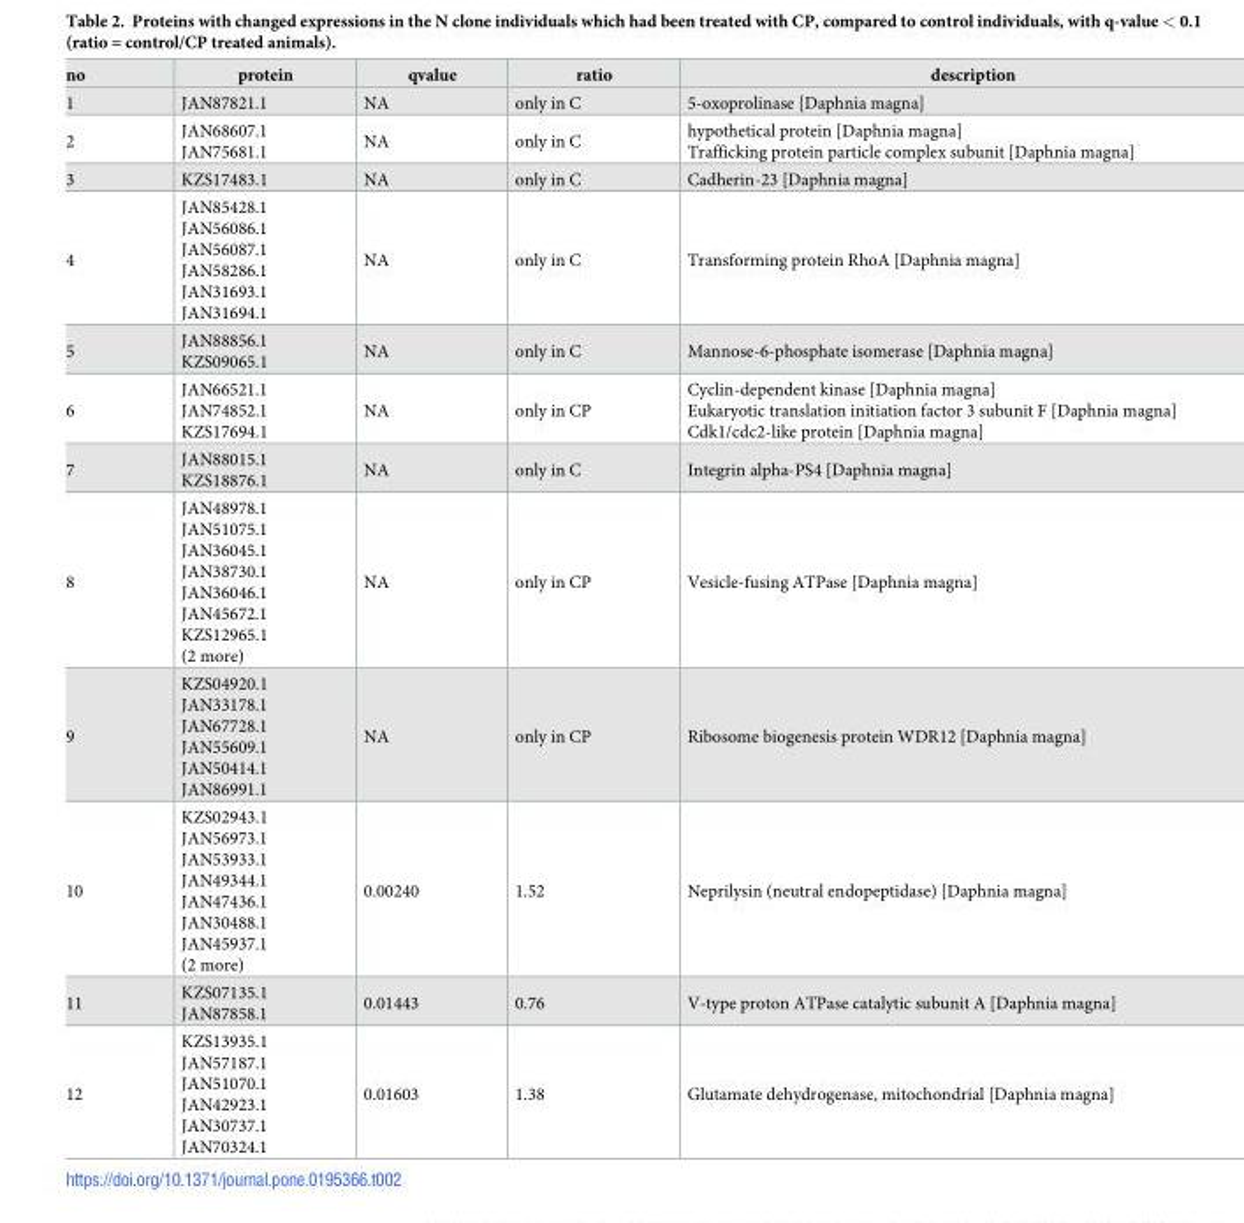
<table><thead><tr><td>no</td><td>protein</td><td>qvalue</td><td>ratio</td><td>description</td></tr></thead><tbody><tr><td>1</td><td>JAN87821.1</td><td>NA</td><td>only in C</td><td>5-oxoprolinase [Daphnia magna]</td></tr><tr><td>2</td><td>JAN68607.1 JAN75681.1</td><td>NA</td><td>only in C</td><td>hypothetical protein [Daphnia magna] Trafficking protein particle complex subunit [Daphnia magna]</td></tr><tr><td>3</td><td>KZS17483.1</td><td>NA</td><td>only in C</td><td>Cadherin-23 [Daphnia magna]</td></tr><tr><td>4</td><td>JAN85428.1 JAN56086.1 JAN56087.1 JAN58286.1 JAN31693.1 JAN31694.1</td><td>NA</td><td>only in C</td><td>Transforming protein RhoA [Daphnia magna]</td></tr><tr><td>5</td><td>JAN88856.1 KZS09065.1</td><td>NA</td><td>only in C</td><td>Mannose-6-phosphate isomerase [Daphnia magna]</td></tr><tr><td>6</td><td>JAN66521.1 JAN74852.1 KZS17694.1</td><td>NA</td><td>only in CP</td><td>Cyclin-dependent kinase [Daphnia magna] Eukaryotic translation initiation factor 3 subunit F [Daphnia magna] Cdk1/cdc2-like protein [Daphnia magna]</td></tr><tr><td>7</td><td>JAN88015.1 KZS18876.1</td><td>NA</td><td>only in C</td><td>Integrin alpha-PS4 [Daphnia magna]</td></tr><tr><td>8</td><td>JAN48978.1 JAN51075.1 JAN36045.1 JAN38730.1 JAN36046.1 JAN45672.1 KZS12965.1 (2 more)</td><td>NA</td><td>only in CP</td><td>Vesicle-fusing ATPase [Daphnia magna]</td></tr><tr><td>9</td><td>KZS04920.1 JAN33178.1 JAN67728.1 JAN55609.1 JAN50414.1 JAN86991.1</td><td>NA</td><td>only in CP</td><td>Ribosome biogenesis protein WDR12 [Daphnia magna]</td></tr><tr><td>10</td><td>KZS02943.1 JAN56973.1 JAN53933.1 JAN49344.1 JAN47436.1 JAN30488.1 JAN45937.1 (2 more)</td><td>0.00240</td><td>1.52</td><td>Neprilysin (neutral endopeptidase) [Daphnia magna]</td></tr><tr><td>11</td><td>KZS07135.1 JAN87858.1</td><td>0.01443</td><td>0.76</td><td>V-type proton ATPase catalytic subunit A [Daphnia magna]</td></tr><tr><td>12</td><td>KZS13935.1 JAN57187.1 JAN51070.1 JAN42923.1 JAN30737.1 JAN70324.1</td><td>0.01603</td><td>1.38</td><td>Glutamate dehydrogenase, mitochondrial [Daphnia magna]</td></tr></tbody></table>